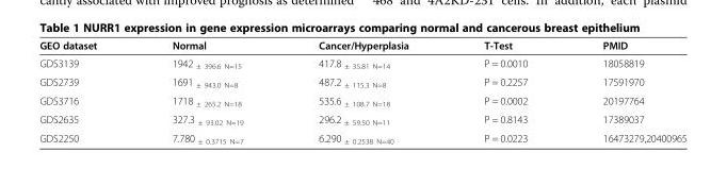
<table><thead><tr><td>GEO dataset</td><td>Normal</td><td>Cancer/Hyperplasia</td><td>T-Test</td><td>PMID</td></tr></thead><tbody><tr><td>GDS3139</td><td>1942 <sub>± 396.6 N=15</sub></td><td>417.8 <sub>± 35.81 N=14</sub></td><td>P = 0.0010</td><td>18058819</td></tr><tr><td>GDS2739</td><td>1691 <sub>± 943.0 N=8</sub></td><td>487.2 <sub>± 115.3 N=8</sub></td><td>P = 0.2257</td><td>17591970</td></tr><tr><td>GDS3716</td><td>1718 <sub>± 265.2 N=18</sub></td><td>535.6 <sub>± 108.7 N=18</sub></td><td>P = 0.0002</td><td>20197764</td></tr><tr><td>GDS2635</td><td>327.3 <sub>± 93.02 N=19</sub></td><td>296.2 <sub>± 59.50 N=11</sub></td><td>P = 0.8143</td><td>17389037</td></tr><tr><td>GDS2250</td><td>7.780 <sub>± 0.3715 N=7</sub></td><td>6.290 <sub>± 0.2538 N=40</sub></td><td>P = 0.0223</td><td>16473279,20400965</td></tr></tbody></table>